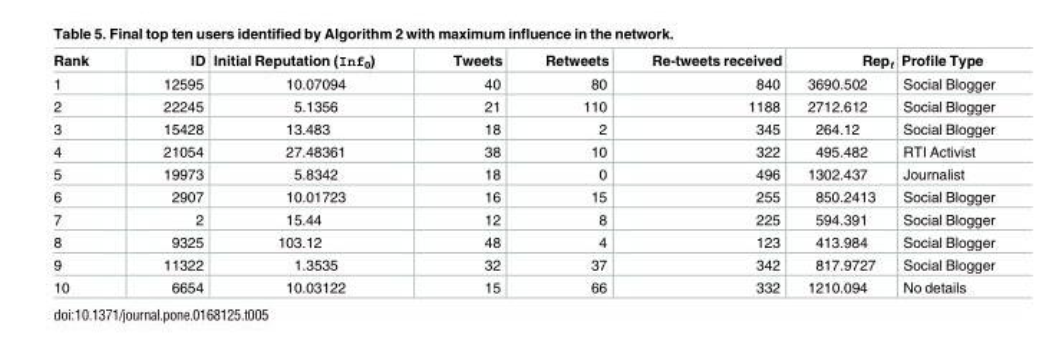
<table><thead><tr><td>Rank</td><td>ID</td><td>Initial Reputation (Inf<sub>0</sub>)</td><td>Tweets</td><td>Retweets</td><td>Re-tweets received</td><td>Rep<sub>t</sub></td><td>Profile Type</td></tr></thead><tbody><tr><td>1</td><td>12595</td><td>10.07094</td><td>40</td><td>80</td><td>840</td><td>3690.502</td><td>Social Blogger</td></tr><tr><td>2</td><td>22245</td><td>5.1356</td><td>21</td><td>110</td><td>1188</td><td>2712.612</td><td>Social Blogger</td></tr><tr><td>3</td><td>15428</td><td>13.483</td><td>18</td><td>2</td><td>345</td><td>264.12</td><td>Social Blogger</td></tr><tr><td>4</td><td>21054</td><td>27.48361</td><td>38</td><td>10</td><td>322</td><td>495.482</td><td>RTI Activist</td></tr><tr><td>5</td><td>19973</td><td>5.8342</td><td>18</td><td>0</td><td>496</td><td>1302.437</td><td>Journalist</td></tr><tr><td>6</td><td>2907</td><td>10.01723</td><td>16</td><td>15</td><td>255</td><td>850.2413</td><td>Social Blogger</td></tr><tr><td>7</td><td>2</td><td>15.44</td><td>12</td><td>8</td><td>225</td><td>594.391</td><td>Social Blogger</td></tr><tr><td>8</td><td>9325</td><td>103.12</td><td>48</td><td>4</td><td>123</td><td>413.984</td><td>Social Blogger</td></tr><tr><td>9</td><td>11322</td><td>1.3535</td><td>32</td><td>37</td><td>342</td><td>817.9727</td><td>Social Blogger</td></tr><tr><td>10</td><td>6654</td><td>10.03122</td><td>15</td><td>66</td><td>332</td><td>1210.094</td><td>No details</td></tr></tbody></table>